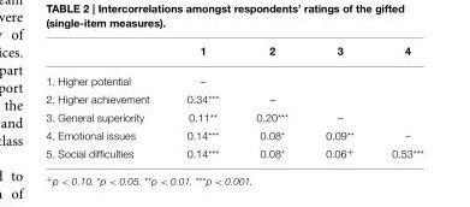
<table><thead><tr><td></td><td>1</td><td>2</td><td>3</td><td>4</td></tr></thead><tbody><tr><td>1. Higher potential</td><td>–</td><td></td><td></td><td></td></tr><tr><td>2. Higher achievement</td><td>0.34***</td><td>–</td><td></td><td></td></tr><tr><td>3. General superiority</td><td>0.11**</td><td>0.20***</td><td>–</td><td></td></tr><tr><td>4. Emotional issues</td><td>0.14***</td><td>0.08*</td><td>0.09**</td><td>–</td></tr><tr><td>5. Social difficulties</td><td>0.14***</td><td>0.08*</td><td>0.06<sup>+</sup></td><td>0.53***</td></tr></tbody></table>